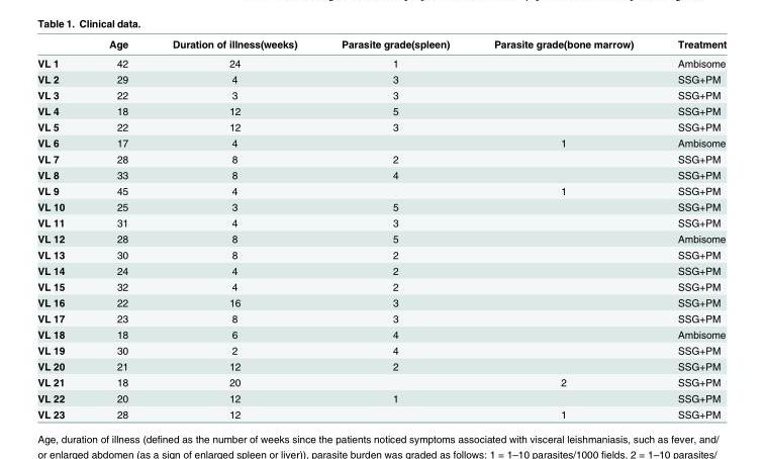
<table><thead><tr><td></td><td>Age</td><td>Duration of illness(weeks)</td><td>Parasite grade(spleen)</td><td>Parasite grade(bone marrow)</td><td>Treatment</td></tr></thead><tbody><tr><td>VL 1</td><td>42</td><td>24</td><td>1</td><td></td><td>Ambisome</td></tr><tr><td>VL 2</td><td>29</td><td>4</td><td>3</td><td></td><td>SSG+PM</td></tr><tr><td>VL 3</td><td>22</td><td>3</td><td>3</td><td></td><td>SSG+PM</td></tr><tr><td>VL 4</td><td>18</td><td>12</td><td>5</td><td></td><td>SSG+PM</td></tr><tr><td>VL 5</td><td>22</td><td>12</td><td>3</td><td></td><td>SSG+PM</td></tr><tr><td>VL 6</td><td>17</td><td>4</td><td></td><td>1</td><td>Ambisome</td></tr><tr><td>VL 7</td><td>28</td><td>8</td><td>2</td><td></td><td>SSG+PM</td></tr><tr><td>VL 8</td><td>33</td><td>8</td><td>4</td><td></td><td>SSG+PM</td></tr><tr><td>VL 9</td><td>45</td><td>4</td><td></td><td>1</td><td>SSG+PM</td></tr><tr><td>VL 10</td><td>25</td><td>3</td><td>5</td><td></td><td>SSG+PM</td></tr><tr><td>VL 11</td><td>31</td><td>4</td><td>3</td><td></td><td>SSG+PM</td></tr><tr><td>VL 12</td><td>28</td><td>8</td><td>5</td><td></td><td>Ambisome</td></tr><tr><td>VL 13</td><td>30</td><td>8</td><td>2</td><td></td><td>SSG+PM</td></tr><tr><td>VL 14</td><td>24</td><td>4</td><td>2</td><td></td><td>SSG+PM</td></tr><tr><td>VL 15</td><td>32</td><td>4</td><td>2</td><td></td><td>SSG+PM</td></tr><tr><td>VL 16</td><td>22</td><td>16</td><td>3</td><td></td><td>SSG+PM</td></tr><tr><td>VL 17</td><td>23</td><td>8</td><td>3</td><td></td><td>SSG+PM</td></tr><tr><td>VL 18</td><td>18</td><td>6</td><td>4</td><td></td><td>Ambisome</td></tr><tr><td>VL 19</td><td>30</td><td>2</td><td>4</td><td></td><td>SSG+PM</td></tr><tr><td>VL 20</td><td>21</td><td>12</td><td>2</td><td></td><td>SSG+PM</td></tr><tr><td>VL 21</td><td>18</td><td>20</td><td></td><td>2</td><td>SSG+PM</td></tr><tr><td>VL 22</td><td>20</td><td>12</td><td>1</td><td></td><td>SSG+PM</td></tr><tr><td>VL 23</td><td>28</td><td>12</td><td></td><td>1</td><td>SSG+PM</td></tr></tbody></table>